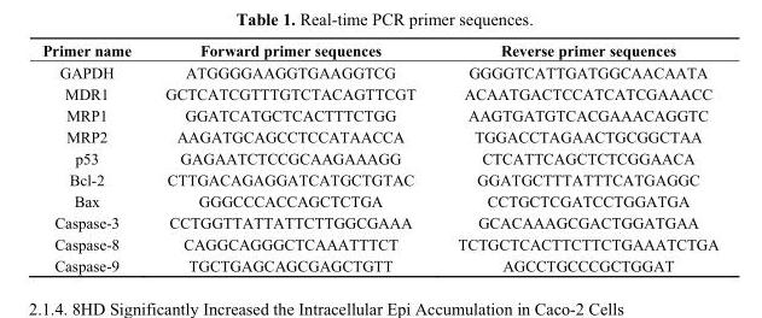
<table><thead><tr><td>Primer name</td><td>Forward primer sequences</td><td>Reverse primer sequences</td></tr></thead><tbody><tr><td>GAPDH</td><td>ATGGGGAAGGTGAAGGTCG</td><td>GGGGTCATTGATGGCAACAATA</td></tr><tr><td>MDR1</td><td>GCTCATCGTTTGTCTACAGTTCGT</td><td>ACAATGACTCCATCATCGAAACC</td></tr><tr><td>MRP1</td><td>GGATCATGCTCACTTTCTGG</td><td>AAGTGATGTCACGAAACAGGTC</td></tr><tr><td>MRP2</td><td>AAGATGCAGCCTCCATAACCA</td><td>TGGACCTAGAACTGCGGCTAA</td></tr><tr><td>p53</td><td>GAGAATCTCCGCAAGAAAGG</td><td>CTCATTCAGCTCTCGGAACA</td></tr><tr><td>Bcl-2</td><td>CTTGACAGAGGATCATGCTGTAC</td><td>GGATGCTTTATTTCATGAGGC</td></tr><tr><td>Bax</td><td>GGGCCCACCAGCTCTGA</td><td>CCTGCTCGATCCTGGATGA</td></tr><tr><td>Caspase-3</td><td>CCTGGTTATTATTCTTGGCGAAA</td><td>GCACAAAGCGACTGGATGAA</td></tr><tr><td>Caspase-8</td><td>CAGGCAGGGCTCAAATTTCT</td><td>TCTGCTCACTTCTTCTGAAATCTGA</td></tr><tr><td>Caspase-9</td><td>TGCTGAGCAGCGAGCTGTT</td><td>AGCCTGCCCGCTGGAT</td></tr></tbody></table>